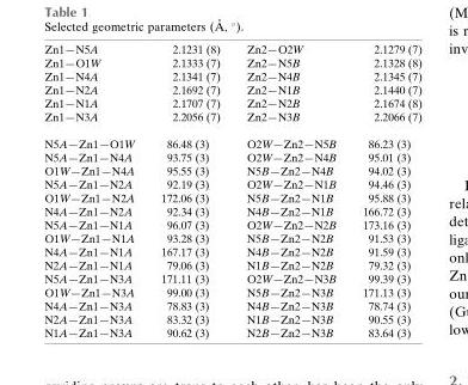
<table><tbody><tr><td>Zn1—N5A</td><td>2.1231 (8)</td><td>Zn2—O2W</td><td>2.1279 (7)</td></tr><tr><td>Zn1—O1W</td><td>2.1333 (7)</td><td>Zn2—N5B</td><td>2.1328 (8)</td></tr><tr><td>Zn1—N4A</td><td>2.1341 (7)</td><td>Zn2—N4B</td><td>2.1345 (7)</td></tr><tr><td>Zn1—N2A</td><td>2.1692 (7)</td><td>Zn2—N1B</td><td>2.1440 (7)</td></tr><tr><td>Zn1—N1A</td><td>2.1707 (7)</td><td>Zn2—N2B</td><td>2.1674 (8)</td></tr><tr><td>Zn1—N3A</td><td>2.2056 (7)</td><td>Zn2—N3B</td><td>2.2066 (7)</td></tr><tr><td>N5A—Zn1—O1W</td><td>86.48 (3)</td><td>O2W—Zn2—N5B</td><td>86.23 (3)</td></tr><tr><td>N5A—Zn1—N4A</td><td>93.75 (3)</td><td>O2W—Zn2—N4B</td><td>95.01 (3)</td></tr><tr><td>O1W—Zn1—N4A</td><td>95.55 (3)</td><td>N5B—Zn2—N4B</td><td>94.02 (3)</td></tr><tr><td>N5A—Zn1—N2A</td><td>92.19 (3)</td><td>O2W—Zn2—N1B</td><td>94.46 (3)</td></tr><tr><td>O1W—Zn1—N2A</td><td>172.06 (3)</td><td>N5B—Zn2—N1B</td><td>95.88 (3)</td></tr><tr><td>N4A—Zn1—N2A</td><td>92.34 (3)</td><td>N4B—Zn2—N1B</td><td>166.72 (3)</td></tr><tr><td>N5A—Zn1—N1A</td><td>96.07 (3)</td><td>O2W—Zn2—N2B</td><td>173.16 (3)</td></tr><tr><td>O1W—Zn1—N1A</td><td>93.28 (3)</td><td>N5B—Zn2—N2B</td><td>91.53 (3)</td></tr><tr><td>N4A—Zn1—N1A</td><td>167.17 (3)</td><td>N4B—Zn2—N2B</td><td>91.59 (3)</td></tr><tr><td>N2A—Zn1—N1A</td><td>79.06 (3)</td><td>N1B—Zn2—N2B</td><td>79.32 (3)</td></tr><tr><td>N5A—Zn1—N3A</td><td>171.11 (3)</td><td>O2W—Zn2—N3B</td><td>99.39 (3)</td></tr><tr><td>O1W—Zn1—N3A</td><td>99.00 (3)</td><td>N5B—Zn2—N3B</td><td>171.13 (3)</td></tr><tr><td>N4A—Zn1—N3A</td><td>78.83 (3)</td><td>N4B—Zn2—N3B</td><td>78.74 (3)</td></tr><tr><td>N2A—Zn1—N3A</td><td>83.32 (3)</td><td>N1B—Zn2—N3B</td><td>90.55 (3)</td></tr><tr><td>N1A—Zn1—N3A</td><td>90.62 (3)</td><td>N2B—Zn2—N3B</td><td>83.64 (3)</td></tr></tbody></table>